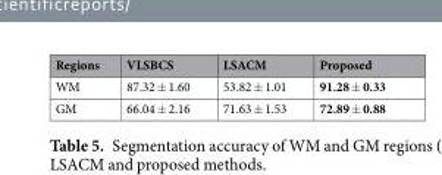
<table><thead><tr><td>Regions</td><td>VLSBCS</td><td>LSACM</td><td>Proposed</td></tr></thead><tbody><tr><td>WM</td><td>87.32 ± 1.60</td><td>53.82 ± 1.01</td><td>91.28 ± 0.33</td></tr><tr><td>GM</td><td>66.04 ± 2.16</td><td>71.63 ± 1.53</td><td>72.89 ± 0.88</td></tr></tbody></table>